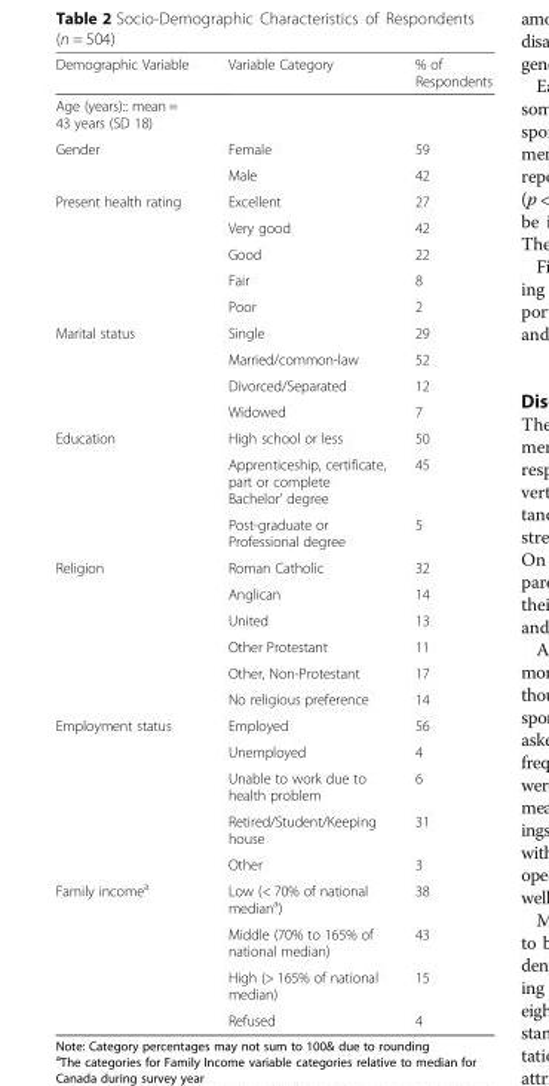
<table><thead><tr><td>Demographic Variable</td><td>Variable Category</td><td>% of Respondents</td></tr></thead><tbody><tr><td colspan="3">Age (years):: mean = 43 years (SD 18)</td></tr><tr><td rowspan="2">Gender</td><td>Female</td><td>59</td></tr><tr><td>Male</td><td>42</td></tr><tr><td rowspan="5">Present health rating</td><td>Excellent</td><td>27</td></tr><tr><td>Very good</td><td>42</td></tr><tr><td>Good</td><td>22</td></tr><tr><td>Fair</td><td>8</td></tr><tr><td>Poor</td><td>2</td></tr><tr><td rowspan="4">Marital status</td><td>Single</td><td>29</td></tr><tr><td>Married/common-law</td><td>52</td></tr><tr><td>Divorced/Separated</td><td>12</td></tr><tr><td>Widowed</td><td>7</td></tr><tr><td rowspan="3">Education</td><td>High school or less</td><td>50</td></tr><tr><td>Apprenticeship, certificate, part or complete Bachelor’ degree</td><td>45</td></tr><tr><td>Post-graduate or Professional degree</td><td>5</td></tr><tr><td rowspan="6">Religion</td><td>Roman Catholic</td><td>32</td></tr><tr><td>Anglican</td><td>14</td></tr><tr><td>United</td><td>13</td></tr><tr><td>Other Protestant</td><td>11</td></tr><tr><td>Other, Non-Protestant</td><td>17</td></tr><tr><td>No religious preference</td><td>14</td></tr><tr><td rowspan="5">Employment status</td><td>Employed</td><td>56</td></tr><tr><td>Unemployed</td><td>4</td></tr><tr><td>Unable to work due to health problem</td><td>6</td></tr><tr><td>Retired/Student/Keeping house</td><td>31</td></tr><tr><td>Other</td><td>3</td></tr><tr><td rowspan="4">Family income<sup>a</sup></td><td>Low (&lt; 70% of national median<sup>a</sup>)</td><td>38</td></tr><tr><td>Middle (70% to 165% of national median)</td><td>43</td></tr><tr><td>High (&gt; 165% of national median)</td><td>15</td></tr><tr><td>Refused</td><td>4</td></tr></tbody></table>